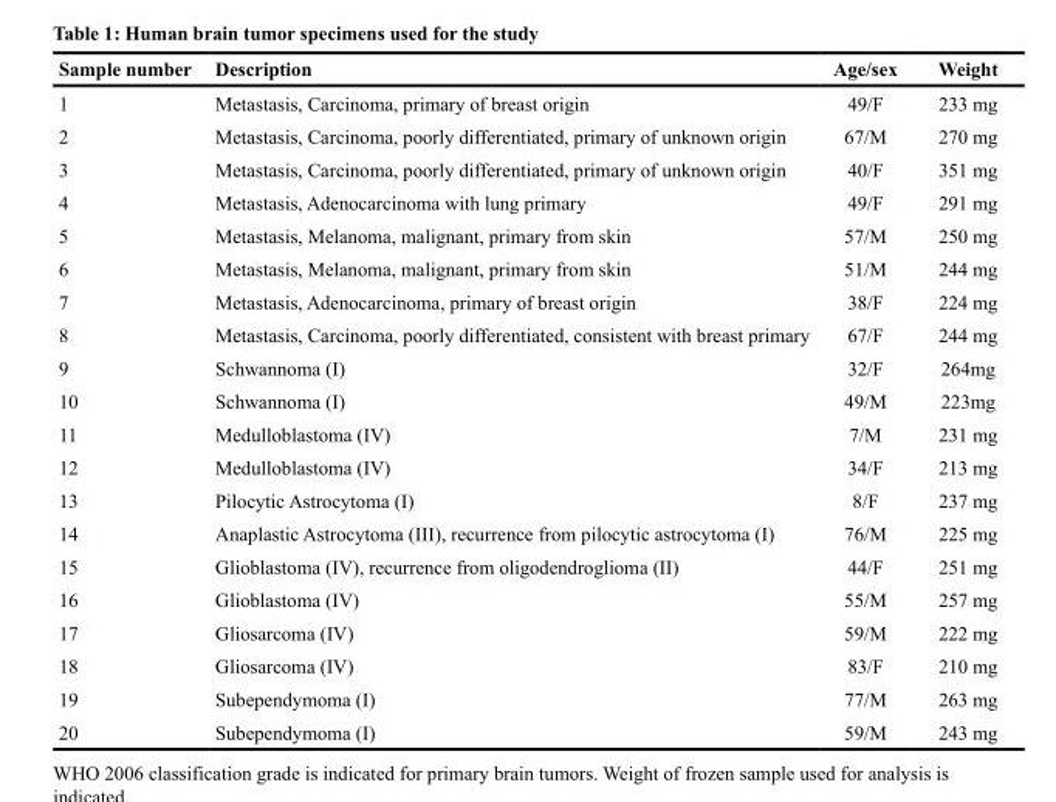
<table><thead><tr><td>Sample number</td><td>Description</td><td>Age/sex</td><td>Weight</td></tr></thead><tbody><tr><td>1</td><td>Metastasis, Carcinoma, primary of breast origin</td><td>49/F</td><td>233 mg</td></tr><tr><td>2</td><td>Metastasis, Carcinoma, poorly differentiated, primary of unknown origin</td><td>67/M</td><td>270 mg</td></tr><tr><td>3</td><td>Metastasis, Carcinoma, poorly differentiated, primary of unknown origin</td><td>40/F</td><td>351 mg</td></tr><tr><td>4</td><td>Metastasis, Adenocarcinoma with lung primary</td><td>49/F</td><td>291 mg</td></tr><tr><td>5</td><td>Metastasis, Melanoma, malignant, primary from skin</td><td>57/M</td><td>250 mg</td></tr><tr><td>6</td><td>Metastasis, Melanoma, malignant, primary from skin</td><td>51/M</td><td>244 mg</td></tr><tr><td>7</td><td>Metastasis, Adenocarcinoma, primary of breast origin</td><td>38/F</td><td>224 mg</td></tr><tr><td>8</td><td>Metastasis, Carcinoma, poorly differentiated, consistent with breast primary</td><td>67/F</td><td>244 mg</td></tr><tr><td>9</td><td>Schwannoma (I)</td><td>32/F</td><td>264mg</td></tr><tr><td>10</td><td>Schwannoma (I)</td><td>49/M</td><td>223mg</td></tr><tr><td>11</td><td>Medulloblastoma (IV)</td><td>7/M</td><td>231 mg</td></tr><tr><td>12</td><td>Medulloblastoma (IV)</td><td>34/F</td><td>213 mg</td></tr><tr><td>13</td><td>Pilocytic Astrocytoma (I)</td><td>8/F</td><td>237 mg</td></tr><tr><td>14</td><td>Anaplastic Astrocytoma (III), recurrence from pilocytic astrocytoma (I)</td><td>76/M</td><td>225 mg</td></tr><tr><td>15</td><td>Glioblastoma (IV), recurrence from oligodendroglioma (II)</td><td>44/F</td><td>251 mg</td></tr><tr><td>16</td><td>Glioblastoma (IV)</td><td>55/M</td><td>257 mg</td></tr><tr><td>17</td><td>Gliosarcoma (IV)</td><td>59/M</td><td>222 mg</td></tr><tr><td>18</td><td>Gliosarcoma (IV)</td><td>83/F</td><td>210 mg</td></tr><tr><td>19</td><td>Subependymoma (I)</td><td>77/M</td><td>263 mg</td></tr><tr><td>20</td><td>Subependymoma (I)</td><td>59/M</td><td>243 mg</td></tr></tbody></table>